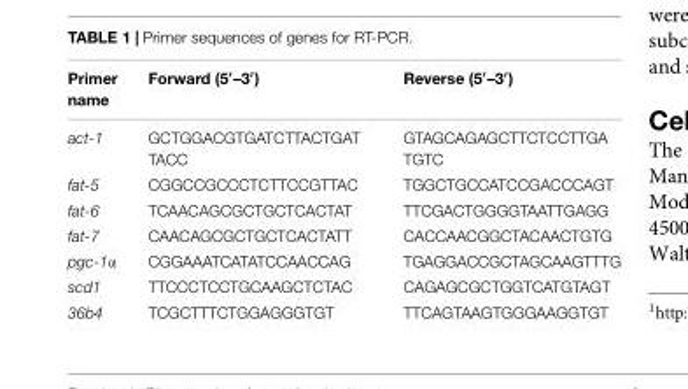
<table><thead><tr><td>Primer name</td><td>Forward (5′–3′)</td><td>Reverse (5′–3′)</td></tr></thead><tbody><tr><td>act-1</td><td>GCTGGACGTGATCTTACTGAT TACC</td><td>GTAGCAGAGCTTCTCCTTGA TGTC</td></tr><tr><td>fat-5</td><td>CGGCCGCCCTCTTCCGTTAC</td><td>TGGCTGCCATCCGACCCAGT</td></tr><tr><td>fat-6</td><td>TCAACAGCGCTGCTCACTAT</td><td>TTCGACTGGGGTAATTGAGG</td></tr><tr><td>fat-7</td><td>CAACAGCGCTGCTCACTATT</td><td>CACCAACGGCTACAACTGTG</td></tr><tr><td>pgc-1α</td><td>CGGAAATCATATCCAACCAG</td><td>TGAGGACCGCTAGCAAGTTTG</td></tr><tr><td>scd1</td><td>TTCCCTCCTGCAAGCTCTAC</td><td>CAGAGCGCTGGTCATGTAGT</td></tr><tr><td>36b4</td><td>TCGCTTTCTGGAGGGTGT</td><td>TTCAGTAAGTGGGAAGGTGT</td></tr></tbody></table>